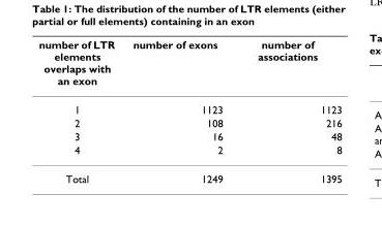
<table><thead><tr><td>number of LTR elements overlaps with an exon</td><td>number of exons</td><td>number of associations</td></tr></thead><tbody><tr><td>1</td><td>1123</td><td>1123</td></tr><tr><td>2</td><td>108</td><td>216</td></tr><tr><td>3</td><td>16</td><td>48</td></tr><tr><td>4</td><td>2</td><td>8</td></tr><tr><td>Total</td><td>1249</td><td>1395</td></tr></tbody></table>